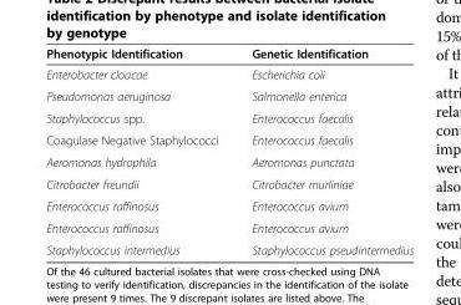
<table><thead><tr><td>Phenotypic Identification</td><td>Genetic Identification</td></tr></thead><tbody><tr><td>Enterobacter cloacae</td><td>Escherichia coli</td></tr><tr><td>Pseudomonas aeruginosa</td><td>Salmonella enterica</td></tr><tr><td>Staphylococcus spp.</td><td>Enterococcus faecalis</td></tr><tr><td>Coagulase Negative Staphylococci</td><td>Enterococcus faecalis</td></tr><tr><td>Aeromonas hydrophila</td><td>Aeromonas punctata</td></tr><tr><td>Citrobacter freundii</td><td>Citrobacter murliniae</td></tr><tr><td>Enterococcus raffinosus</td><td>Enterococcus avium</td></tr><tr><td>Enterococcus raffinosus</td><td>Enterococcus avium</td></tr><tr><td>Staphylococcus intermedius</td><td>Staphylococcus pseudintermedius</td></tr></tbody></table>